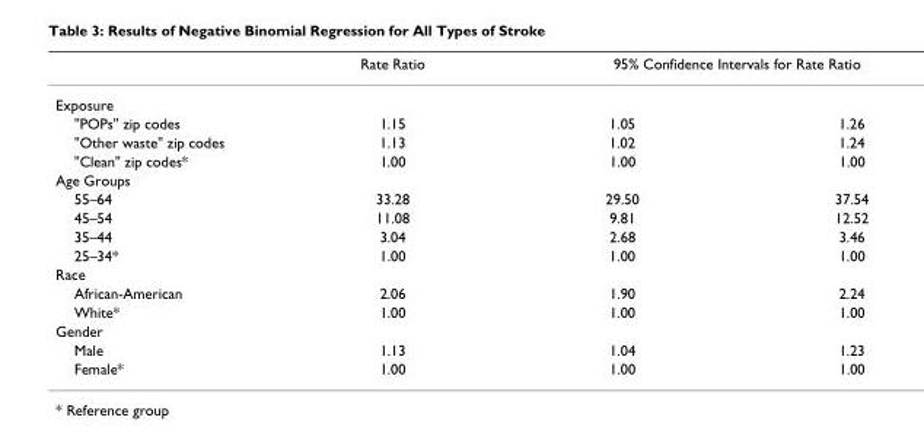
<table><thead><tr><td></td><td>Rate Ratio</td><td colspan="2">95% Confidence Intervals for Rate Ratio</td></tr><tr><td colspan="4">Exposure</td></tr><tr><td>&quot;POPs&quot; zip codes</td><td>1.15</td><td>1.05</td><td>1.26</td></tr></thead><tbody><tr><td>&quot;Other waste&quot; zip codes</td><td>1.13</td><td>1.02</td><td>1.24</td></tr><tr><td>&quot;Clean&quot; zip codes*</td><td>1.00</td><td>1.00</td><td>1.00</td></tr><tr><td colspan="4">Age Groups</td></tr><tr><td>55–64</td><td>33.28</td><td>29.50</td><td>37.54</td></tr><tr><td>45–54</td><td>11.08</td><td>9.81</td><td>12.52</td></tr><tr><td>35–44</td><td>3.04</td><td>2.68</td><td>3.46</td></tr><tr><td>25–34*</td><td>1.00</td><td>1.00</td><td>1.00</td></tr><tr><td colspan="4">Race</td></tr><tr><td>African-American</td><td>2.06</td><td>1.90</td><td>2.24</td></tr><tr><td>White*</td><td>1.00</td><td>1.00</td><td>1.00</td></tr><tr><td colspan="4">Gender</td></tr><tr><td>Male</td><td>1.13</td><td>1.04</td><td>1.23</td></tr><tr><td>Female*</td><td>1.00</td><td>1.00</td><td>1.00</td></tr></tbody></table>